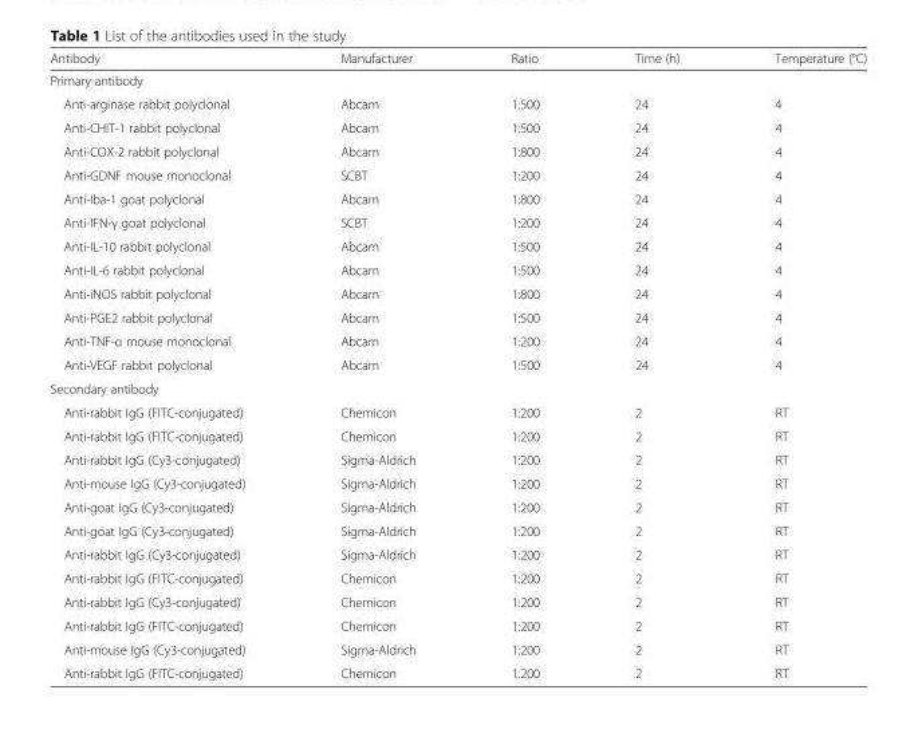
<table><thead><tr><td>Antibody</td><td>Manufacturer</td><td>Ratio</td><td>Time (h)</td><td>Temperature (°C)</td></tr></thead><tbody><tr><td colspan="5">Primary antibody</td></tr><tr><td>Anti-arginase rabbit polyclonal</td><td>Abcam</td><td>1:500</td><td>24</td><td>4</td></tr><tr><td>Anti-CHIT-1 rabbit polyclonal</td><td>Abcam</td><td>1:500</td><td>24</td><td>4</td></tr><tr><td>Anti-COX-2 rabbit polyclonal</td><td>Abcam</td><td>1:800</td><td>24</td><td>4</td></tr><tr><td>Anti-GDNF mouse monoclonal</td><td>SCBT</td><td>1:200</td><td>24</td><td>4</td></tr><tr><td>Anti-Iba-1 goat polyclonal</td><td>Abcam</td><td>1:800</td><td>24</td><td>4</td></tr><tr><td>Anti-IFN-γ goat polyclonal</td><td>SCBT</td><td>1:200</td><td>24</td><td>4</td></tr><tr><td>Anti-IL-10 rabbit polyclonal</td><td>Abcam</td><td>1:500</td><td>24</td><td>4</td></tr><tr><td>Anti-IL-6 rabbit polyclonal</td><td>Abcam</td><td>1:500</td><td>24</td><td>4</td></tr><tr><td>Anti-iNOS rabbit polyclonal</td><td>Abcam</td><td>1:800</td><td>24</td><td>4</td></tr><tr><td>Anti-PGE2 rabbit polyclonal</td><td>Abcam</td><td>1:500</td><td>24</td><td>4</td></tr><tr><td>Anti-TNF-α mouse monoclonal</td><td>Abcam</td><td>1:200</td><td>24</td><td>4</td></tr><tr><td>Anti-VEGF rabbit polyclonal</td><td>Abcam</td><td>1:500</td><td>24</td><td>4</td></tr><tr><td colspan="5">Secondary antibody</td></tr><tr><td>Anti-rabbit IgG (FITC-conjugated)</td><td>Chemicon</td><td>1:200</td><td>2</td><td>RT</td></tr><tr><td>Anti-rabbit IgG (FITC-conjugated)</td><td>Chemicon</td><td>1:200</td><td>2</td><td>RT</td></tr><tr><td>Anti-rabbit IgG (Cy3-conjugated)</td><td>Sigma-Aldrich</td><td>1:200</td><td>2</td><td>RT</td></tr><tr><td>Anti-mouse IgG (Cy3-conjugated)</td><td>Sigma-Aldrich</td><td>1:200</td><td>2</td><td>RT</td></tr><tr><td>Anti-goat IgG (Cy3-conjugated)</td><td>Sigma-Aldrich</td><td>1:200</td><td>2</td><td>RT</td></tr><tr><td>Anti-goat IgG (Cy3-conjugated)</td><td>Sigma-Aldrich</td><td>1:200</td><td>2</td><td>RT</td></tr><tr><td>Anti-rabbit IgG (Cy3-conjugated)</td><td>Sigma-Aldrich</td><td>1:200</td><td>2</td><td>RT</td></tr><tr><td>Anti-rabbit IgG (FITC-conjugated)</td><td>Chemicon</td><td>1:200</td><td>2</td><td>RT</td></tr><tr><td>Anti-rabbit IgG (Cy3-conjugated)</td><td>Chemicon</td><td>1:200</td><td>2</td><td>RT</td></tr><tr><td>Anti-rabbit IgG (FITC-conjugated)</td><td>Chemicon</td><td>1:200</td><td>2</td><td>RT</td></tr><tr><td>Anti-mouse IgG (Cy3-conjugated)</td><td>Sigma-Aldrich</td><td>1:200</td><td>2</td><td>RT</td></tr><tr><td>Anti-rabbit IgG (FITC-conjugated)</td><td>Chemicon</td><td>1:200</td><td>2</td><td>RT</td></tr></tbody></table>